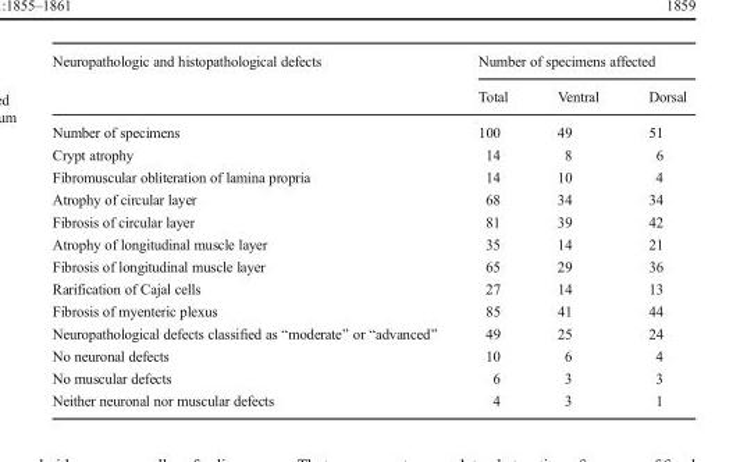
<table><thead><tr><td rowspan="2">Neuropathologic and histopathological defects</td><td colspan="3">Number of specimens affected</td></tr><tr><td>Total</td><td>Ventral</td><td>Dorsal</td></tr></thead><tbody><tr><td>Number of specimens</td><td>100</td><td>49</td><td>51</td></tr><tr><td>Crypt atrophy</td><td>14</td><td>8</td><td>6</td></tr><tr><td>Fibromuscular obliteration of lamina propria</td><td>14</td><td>10</td><td>4</td></tr><tr><td>Atrophy of circular layer</td><td>68</td><td>34</td><td>34</td></tr><tr><td>Fibrosis of circular layer</td><td>81</td><td>39</td><td>42</td></tr><tr><td>Atrophy of longitudinal muscle layer</td><td>35</td><td>14</td><td>21</td></tr><tr><td>Fibrosis of longitudinal muscle layer</td><td>65</td><td>29</td><td>36</td></tr><tr><td>Rarification of Cajal cells</td><td>27</td><td>14</td><td>13</td></tr><tr><td>Fibrosis of myenteric plexus</td><td>85</td><td>41</td><td>44</td></tr><tr><td>Neuropathological defects classified as “moderate” or “advanced”</td><td>49</td><td>25</td><td>24</td></tr><tr><td>No neuronal defects</td><td>10</td><td>6</td><td>4</td></tr><tr><td>No muscular defects</td><td>6</td><td>3</td><td>3</td></tr><tr><td>Neither neuronal nor muscular defects</td><td>4</td><td>3</td><td>1</td></tr></tbody></table>